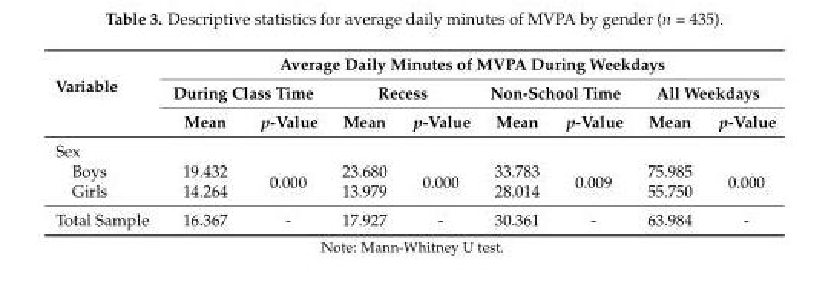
<table><thead><tr><td rowspan="3">Variable</td><td colspan="8">Average Daily Minutes of MVPA During Weekdays</td></tr><tr><td colspan="2">During Class Time</td><td colspan="2">Recess</td><td colspan="2">Non-School Time</td><td colspan="2">All Weekdays</td></tr><tr><td>Mean</td><td>p-Value</td><td>Mean</td><td>p-Value</td><td>Mean</td><td>p-Value</td><td>Mean</td><td>p-Value</td></tr></thead><tbody><tr><td colspan="9">Sex</td></tr><tr><td>Boys</td><td>19.432</td><td rowspan="2">0.000</td><td>23.680</td><td rowspan="2">0.000</td><td>33.783</td><td rowspan="2">0.009</td><td>75.985</td><td rowspan="2">0.000</td></tr><tr><td>Girls</td><td>14.264</td><td>13.979</td><td>28.014</td><td>55.750</td></tr><tr><td>Total Sample</td><td>16.367</td><td>-</td><td>17.927</td><td>-</td><td>30.361</td><td>-</td><td>63.984</td><td>-</td></tr></tbody></table>